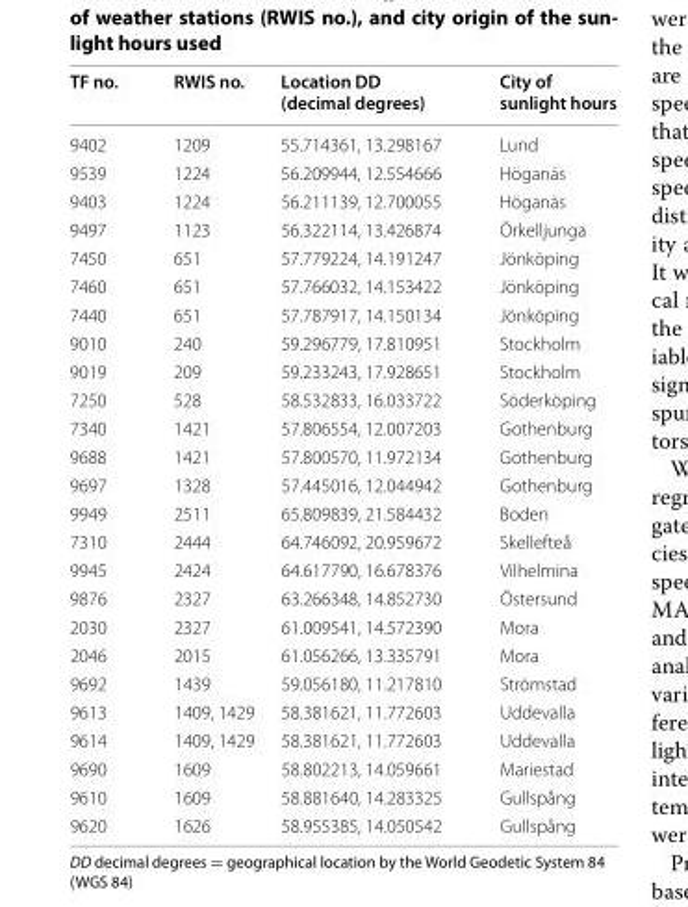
<table><thead><tr><td>TF no.</td><td>RWIS no.</td><td>Location DD (decimal degrees)</td><td>City of sunlight hours</td></tr></thead><tbody><tr><td>9402</td><td>1209</td><td>55.714361, 13.298167</td><td>Lund</td></tr><tr><td>9539</td><td>1224</td><td>56.209944, 12.554666</td><td>Höganäs</td></tr><tr><td>9403</td><td>1224</td><td>56.211139, 12.700055</td><td>Höganäs</td></tr><tr><td>9497</td><td>1123</td><td>56.322114, 13.426874</td><td>Örkelljunga</td></tr><tr><td>7450</td><td>651</td><td>57.779224, 14.191247</td><td>Jönköping</td></tr><tr><td>7460</td><td>651</td><td>57.766032, 14.153422</td><td>Jönköping</td></tr><tr><td>7440</td><td>651</td><td>57.787917, 14.150134</td><td>Jönköping</td></tr><tr><td>9010</td><td>240</td><td>59.296779, 17.810951</td><td>Stockholm</td></tr><tr><td>9019</td><td>209</td><td>59.233243, 17.928651</td><td>Stockholm</td></tr><tr><td>7250</td><td>528</td><td>58.532833, 16.033722</td><td>Söderköping</td></tr><tr><td>7340</td><td>1421</td><td>57.806554, 12.007203</td><td>Gothenburg</td></tr><tr><td>9688</td><td>1421</td><td>57.800570, 11.972134</td><td>Gothenburg</td></tr><tr><td>9697</td><td>1328</td><td>57.445016, 12.044942</td><td>Gothenburg</td></tr><tr><td>9949</td><td>2511</td><td>65.809839, 21.584432</td><td>Boden</td></tr><tr><td>7310</td><td>2444</td><td>64.746092, 20.959672</td><td>Skellefteå</td></tr><tr><td>9945</td><td>2424</td><td>64.617790, 16.678376</td><td>Vilhelmina</td></tr><tr><td>9876</td><td>2327</td><td>63.266348, 14.852730</td><td>Östersund</td></tr><tr><td>2030</td><td>2327</td><td>61.009541, 14.572390</td><td>Mora</td></tr><tr><td>2046</td><td>2015</td><td>61.056266, 13.335791</td><td>Mora</td></tr><tr><td>9692</td><td>1439</td><td>59.056180, 11.217810</td><td>Strömstad</td></tr><tr><td>9613</td><td>1409, 1429</td><td>58.381621, 11.772603</td><td>Uddevalla</td></tr><tr><td>9614</td><td>1409, 1429</td><td>58.381621, 11.772603</td><td>Uddevalla</td></tr><tr><td>9690</td><td>1609</td><td>58.802213, 14.059661</td><td>Mariestad</td></tr><tr><td>9610</td><td>1609</td><td>58.881640, 14.283325</td><td>Gullspång</td></tr><tr><td>9620</td><td>1626</td><td>58.955385, 14.050542</td><td>Gullspång</td></tr></tbody></table>